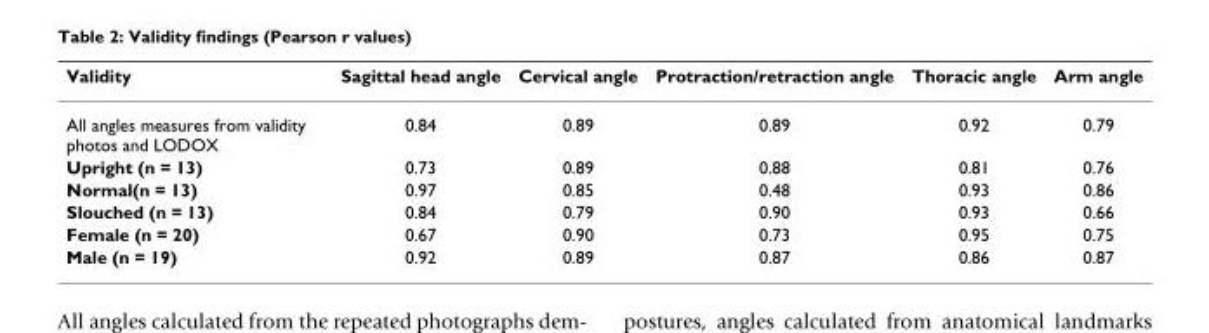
<table><thead><tr><td>Validity</td><td>Sagittal head angle</td><td>Cervical angle</td><td>Protraction/retraction angle</td><td>Thoracic angle</td><td>Arm angle</td></tr></thead><tbody><tr><td>All angles measures from validity photos and LODOX</td><td>0.84</td><td>0.89</td><td>0.89</td><td>0.92</td><td>0.79</td></tr><tr><td>Upright (n = 13)</td><td>0.73</td><td>0.89</td><td>0.88</td><td>0.81</td><td>0.76</td></tr><tr><td>Normal(n = 13)</td><td>0.97</td><td>0.85</td><td>0.48</td><td>0.93</td><td>0.86</td></tr><tr><td>Slouched (n = 13)</td><td>0.84</td><td>0.79</td><td>0.90</td><td>0.93</td><td>0.66</td></tr><tr><td>Female (n = 20)</td><td>0.67</td><td>0.90</td><td>0.73</td><td>0.95</td><td>0.75</td></tr><tr><td>Male (n = 19)</td><td>0.92</td><td>0.89</td><td>0.87</td><td>0.86</td><td>0.87</td></tr></tbody></table>